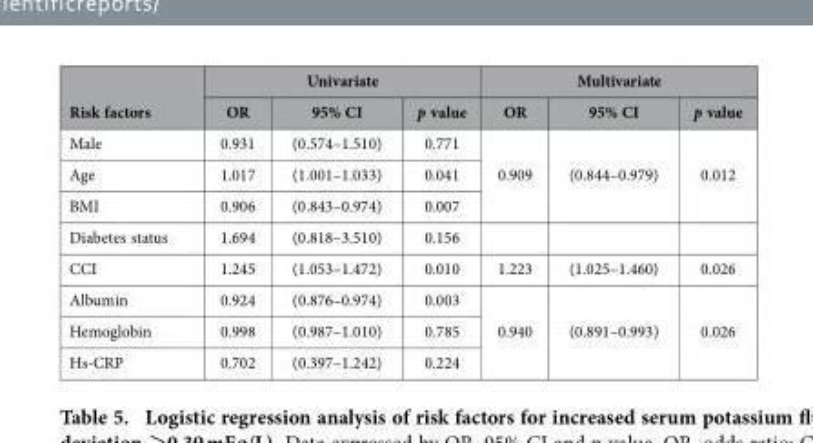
<table><thead><tr><td rowspan="2">Risk factors</td><td colspan="3">Univariate</td><td colspan="3">Multivariate</td></tr><tr><td>OR</td><td>95% CI</td><td>p value</td><td>OR</td><td>95% CI</td><td>p value</td></tr></thead><tbody><tr><td>Male</td><td>0.931</td><td>(0.574–1.510)</td><td>0.771</td><td rowspan="3">0.909</td><td rowspan="3">(0.844–0.979)</td><td rowspan="3">0.012</td></tr><tr><td>Age</td><td>1.017</td><td>(1.001–1.033)</td><td>0.041</td></tr><tr><td>BMI</td><td>0.906</td><td>(0.843–0.974)</td><td>0.007</td></tr><tr><td>Diabetes status</td><td>1.694</td><td>(0.818–3.510)</td><td>0.156</td><td></td><td></td><td></td></tr><tr><td>CCI</td><td>1.245</td><td>(1.053–1.472)</td><td>0.010</td><td>1.223</td><td>(1.025–1.460)</td><td>0.026</td></tr><tr><td>Albumin</td><td>0.924</td><td>(0.876–0.974)</td><td>0.003</td><td rowspan="3">0.940</td><td rowspan="3">(0.891–0.993)</td><td rowspan="3">0.026</td></tr><tr><td>Hemoglobin</td><td>0.998</td><td>(0.987–1.010)</td><td>0.785</td></tr><tr><td>Hs-CRP</td><td>0.702</td><td>(0.397–1.242)</td><td>0.224</td></tr></tbody></table>